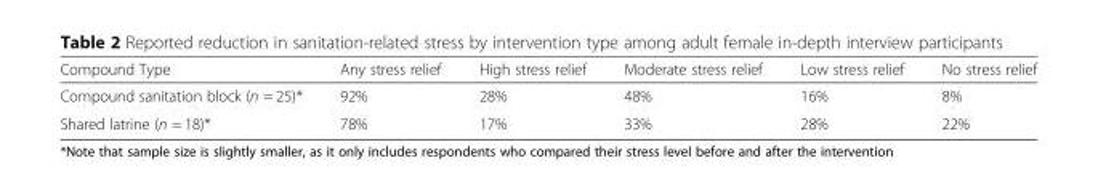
<table><thead><tr><td>Compound Type</td><td>Any stress relief</td><td>High stress relief</td><td>Moderate stress relief</td><td>Low stress relief</td><td>No stress relief</td></tr></thead><tbody><tr><td>Compound sanitation block (n = 25)*</td><td>92%</td><td>28%</td><td>48%</td><td>16%</td><td>8%</td></tr><tr><td>Shared latrine (n = 18)*</td><td>78%</td><td>17%</td><td>33%</td><td>28%</td><td>22%</td></tr></tbody></table>